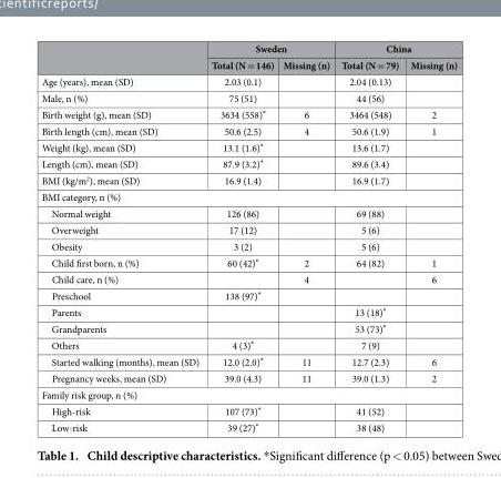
<table><thead><tr><td rowspan="2"></td><td colspan="2">Sweden</td><td colspan="2">China</td></tr><tr><td>Total (N = 146)</td><td>Missing (n)</td><td>Total (N = 79)</td><td>Missing (n)</td></tr></thead><tbody><tr><td>Age (years), mean (SD)</td><td>2.03 (0.1)</td><td></td><td>2.04 (0.13)</td><td></td></tr><tr><td>Male, n (%)</td><td>75 (51)</td><td></td><td>44 (56)</td><td></td></tr><tr><td>Birth weight (g), mean (SD)</td><td>3634 (558)*</td><td>6</td><td>3464 (548)</td><td>2</td></tr><tr><td>Birth length (cm), mean (SD)</td><td>50.6 (2.5)</td><td>4</td><td>50.6 (1.9)</td><td>1</td></tr><tr><td>Weight (kg), mean (SD)</td><td>13.1 (1.6)*</td><td></td><td>13.6 (1.7)</td><td></td></tr><tr><td>Length (cm), mean (SD)</td><td>87.9 (3.2)*</td><td></td><td>89.6 (3.4)</td><td></td></tr><tr><td>BMI (kg/m<sup>2</sup>), mean (SD)</td><td>16.9 (1.4)</td><td></td><td>16.9 (1.7)</td><td></td></tr><tr><td colspan="5">BMI category, n (%)</td></tr><tr><td>Normal weight</td><td>126 (86)</td><td></td><td>69 (88)</td><td></td></tr><tr><td>Overweight</td><td>17 (12)</td><td></td><td>5 (6)</td><td></td></tr><tr><td>Obesity</td><td>3 (2)</td><td></td><td>5 (6)</td><td></td></tr><tr><td>Child first born, n (%)</td><td>60 (42)*</td><td>2</td><td>64 (82)</td><td>1</td></tr><tr><td>Child care, n (%)</td><td></td><td>4</td><td></td><td>6</td></tr><tr><td>Preschool</td><td>138 (97)*</td><td></td><td></td><td></td></tr><tr><td>Parents</td><td></td><td></td><td>13 (18)*</td><td></td></tr><tr><td>Grandparents</td><td></td><td></td><td>53 (73)*</td><td></td></tr><tr><td>Others</td><td>4 (3)*</td><td></td><td>7 (9)</td><td></td></tr><tr><td>Started walking (months), mean (SD)</td><td>12.0 (2.0)*</td><td>11</td><td>12.7 (2.3)</td><td>6</td></tr><tr><td>Pregnancy weeks, mean (SD)</td><td>39.0 (4.3)</td><td>11</td><td>39.0 (1.3)</td><td>2</td></tr><tr><td colspan="5">Family risk group, n (%)</td></tr><tr><td>High-risk</td><td>107 (73)*</td><td></td><td>41 (52)</td><td></td></tr><tr><td>Low-risk</td><td>39 (27)*</td><td></td><td>38 (48)</td><td></td></tr></tbody></table>